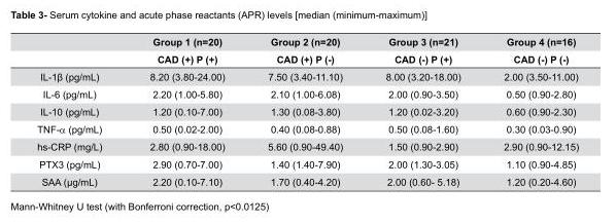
<table><thead><tr><td rowspan="2"></td><td rowspan="2">Group 1 (n=20) CAD (+) P (+)</td><td rowspan="2">Group 2 (n=20) CAD (+) P (-)</td><td rowspan="2">Group 3 (n=21) CAD (-) P (+)</td><td rowspan="2">Group 4 (n=16) CAD (-) P (-)</td></tr><tr></tr></thead><tbody><tr><td>IL-1β (pg/mL)</td><td>8.20 (3.80-24.00)</td><td>7.50 (3.40-11.10)</td><td>8.00 (3.20-18.00)</td><td>2.00 (3.50-11.00)</td></tr><tr><td>IL-6 (pg/mL)</td><td>2.20 (1.00-5.80)</td><td>2.10 (1.00-6.08)</td><td>2.00 (0.90-3.50)</td><td>0.50 (0.90-2.80)</td></tr><tr><td>IL-10 (pg/mL)</td><td>1.20 (0.10-7.00)</td><td>1.30 (0.08-3.80)</td><td>1.20 (0.02-3.20)</td><td>0.60 (0.90-2.30)</td></tr><tr><td>TNF-α (pg/mL)</td><td>0.50 (0.02-2.00)</td><td>0.40 (0.08-0.88)</td><td>0.50 (0.08-1.60)</td><td>0.30 (0.03-0.90)</td></tr><tr><td>hs-CRP (mg/L)</td><td>2.80 (0.90-18.00)</td><td>5.60 (0.90-49.40)</td><td>1.50 (0.90-2.90)</td><td>2.90 (0.90-12.15)</td></tr><tr><td>PTX3 (pg/mL)</td><td>2.90 (0.70-7.00)</td><td>1.40 (1.40-7.90)</td><td>2.00 (1.30-3.05)</td><td>1.10 (0.90-4.85)</td></tr><tr><td>SAA (μg/mL)</td><td>2.20 (0.10-7.10)</td><td>1.70 (0.40-4.20)</td><td>2.00 (0.60- 5.18)</td><td>1.20 (0.20-4.60)</td></tr></tbody></table>